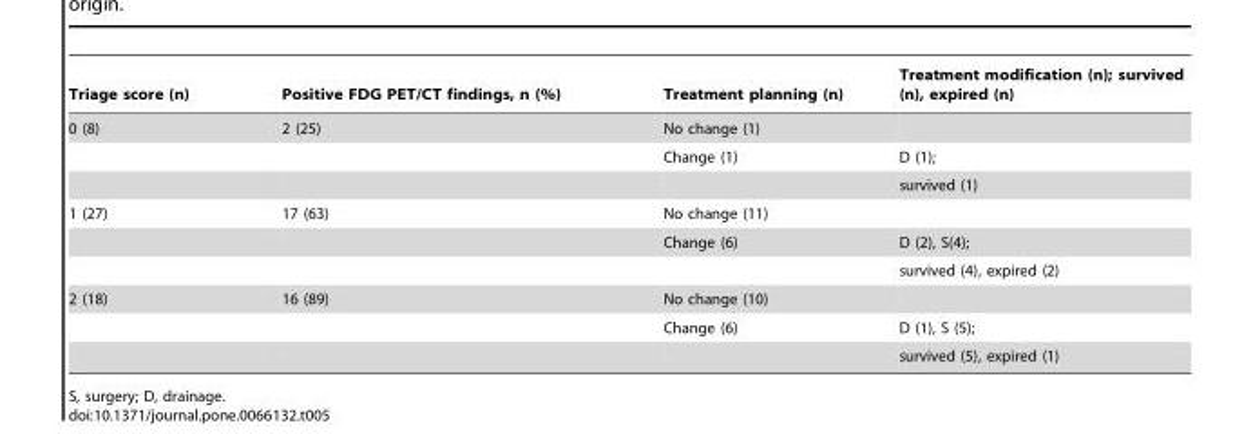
<table><thead><tr><td>Triage score (n)</td><td>Positive FDG PET/CT findings, n (%)</td><td>Treatment planning (n)</td><td>Treatment modification (n); survived (n), expired (n)</td></tr></thead><tbody><tr><td rowspan="3">0 (8)</td><td>2 (25)</td><td>No change (1)</td><td></td></tr><tr><td></td><td>Change (1)</td><td>D (1);</td></tr><tr><td></td><td></td><td>survived (1)</td></tr><tr><td rowspan="3">1 (27)</td><td>17 (63)</td><td>No change (11)</td><td></td></tr><tr><td></td><td>Change (6)</td><td>D (2), S(4);</td></tr><tr><td></td><td></td><td>survived (4), expired (2)</td></tr><tr><td rowspan="3">2 (18)</td><td>16 (89)</td><td>No change (10)</td><td></td></tr><tr><td></td><td>Change (6)</td><td>D (1), S (5);</td></tr><tr><td></td><td></td><td>survived (5), expired (1)</td></tr></tbody></table>